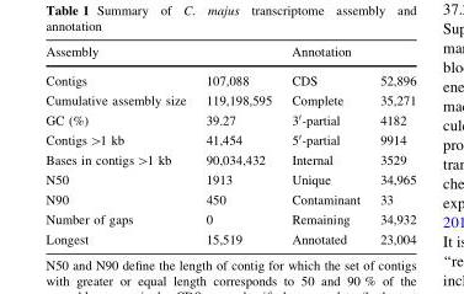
<table><thead><tr><td colspan="2">Assembly</td><td colspan="2">Annotation</td></tr><tr><td>Contigs</td><td>107,088</td><td>CDS</td><td>52,896</td></tr></thead><tbody><tr><td>Cumulative assembly size</td><td>119,198,595</td><td>Complete</td><td>35,271</td></tr><tr><td>GC (%)</td><td>39.27</td><td>3′-partial</td><td>4182</td></tr><tr><td>Contigs &gt;1 kb</td><td>41,454</td><td>5′-partial</td><td>9914</td></tr><tr><td>Bases in contigs &gt;1 kb</td><td>90,034,432</td><td>Internal</td><td>3529</td></tr><tr><td>N50</td><td>1913</td><td>Unique</td><td>34,965</td></tr><tr><td>N90</td><td>450</td><td>Contaminant</td><td>33</td></tr><tr><td>Number of gaps</td><td>0</td><td>Remaining</td><td>34,932</td></tr><tr><td>Longest</td><td>15,519</td><td>Annotated</td><td>23,004</td></tr></tbody></table>